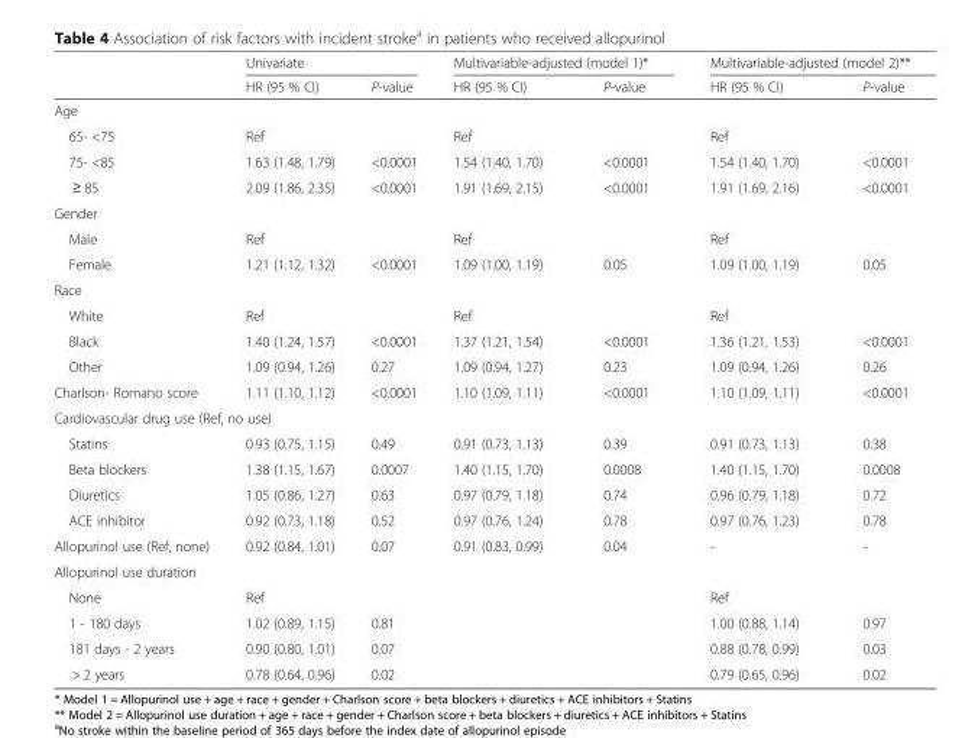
<table><thead><tr><td rowspan="2"></td><td colspan="2">Univariate</td><td colspan="2">Multivariable-adjusted (model 1)*</td><td colspan="2">Multivariable-adjusted (model 2)**</td></tr><tr><td>HR (95 % CI)</td><td>P-value</td><td>HR (95 % CI)</td><td>P-value</td><td>HR (95 % CI)</td><td>P-value</td></tr></thead><tbody><tr><td colspan="7">Age</td></tr><tr><td>65- &lt;75</td><td>Ref</td><td></td><td>Ref</td><td></td><td>Ref</td><td></td></tr><tr><td>75- &lt;85</td><td>1.63 (1.48, 1.79)</td><td>&lt;0.0001</td><td>1.54 (1.40, 1.70)</td><td>&lt;0.0001</td><td>1.54 (1.40, 1.70)</td><td>&lt;0.0001</td></tr><tr><td>≥ 85</td><td>2.09 (1.86, 2.35)</td><td>&lt;0.0001</td><td>1.91 (1.69, 2.15)</td><td>&lt;0.0001</td><td>1.91 (1.69, 2.16)</td><td>&lt;0.0001</td></tr><tr><td colspan="7">Gender</td></tr><tr><td>Male</td><td>Ref</td><td></td><td>Ref</td><td></td><td>Ref</td><td></td></tr><tr><td>Female</td><td>1.21 (1.12, 1.32)</td><td>&lt;0.0001</td><td>1.09 (1.00, 1.19)</td><td>0.05</td><td>1.09 (1.00, 1.19)</td><td>0.05</td></tr><tr><td colspan="7">Race</td></tr><tr><td>White</td><td>Ref</td><td></td><td>Ref</td><td></td><td>Ref</td><td></td></tr><tr><td>Black</td><td>1.40 (1.24, 1.57)</td><td>&lt;0.0001</td><td>1.37 (1.21, 1.54)</td><td>&lt;0.0001</td><td>1.36 (1.21, 1.53)</td><td>&lt;0.0001</td></tr><tr><td>Other</td><td>1.09 (0.94, 1.26)</td><td>0.27</td><td>1.09 (0.94, 1.27)</td><td>0.23</td><td>1.09 (0.94, 1.26)</td><td>0.26</td></tr><tr><td>Charlson- Romano score</td><td>1.11 (1.10, 1.12)</td><td>&lt;0.0001</td><td>1.10 (1.09, 1.11)</td><td>&lt;0.0001</td><td>1.10 (1.09, 1.11)</td><td>&lt;0.0001</td></tr><tr><td colspan="7">Cardiovascular drug use (Ref, no use)</td></tr><tr><td>Statins</td><td>0.93 (0.75, 1.15)</td><td>0.49</td><td>0.91 (0.73, 1.13)</td><td>0.39</td><td>0.91 (0.73, 1.13)</td><td>0.38</td></tr><tr><td>Beta blockers</td><td>1.38 (1.15, 1.67)</td><td>0.0007</td><td>1.40 (1.15, 1.70)</td><td>0.0008</td><td>1.40 (1.15, 1.70)</td><td>0.0008</td></tr><tr><td>Diuretics</td><td>1.05 (0.86, 1.27)</td><td>0.63</td><td>0.97 (0.79, 1.18)</td><td>0.74</td><td>0.96 (0.79, 1.18)</td><td>0.72</td></tr><tr><td>ACE inhibitor</td><td>0.92 (0.73, 1.18)</td><td>0.52</td><td>0.97 (0.76, 1.24)</td><td>0.78</td><td>0.97 (0.76, 1.23)</td><td>0.78</td></tr><tr><td>Allopurinol use (Ref, none)</td><td>0.92 (0.84, 1.01)</td><td>0.07</td><td>0.91 (0.83, 0.99)</td><td>0.04</td><td>-</td><td>-</td></tr><tr><td colspan="7">Allopurinol use duration</td></tr><tr><td>None</td><td>Ref</td><td></td><td></td><td></td><td>Ref</td><td></td></tr><tr><td>1 - 180 days</td><td>1.02 (0.89, 1.15)</td><td>0.81</td><td></td><td></td><td>1.00 (0.88, 1.14)</td><td>0.97</td></tr><tr><td>181 days - 2 years</td><td>0.90 (0.80, 1.01)</td><td>0.07</td><td></td><td></td><td>0.88 (0.78, 0.99)</td><td>0.03</td></tr><tr><td>&gt; 2 years</td><td>0.78 (0.64, 0.96)</td><td>0.02</td><td></td><td></td><td>0.79 (0.65, 0.96)</td><td>0.02</td></tr></tbody></table>